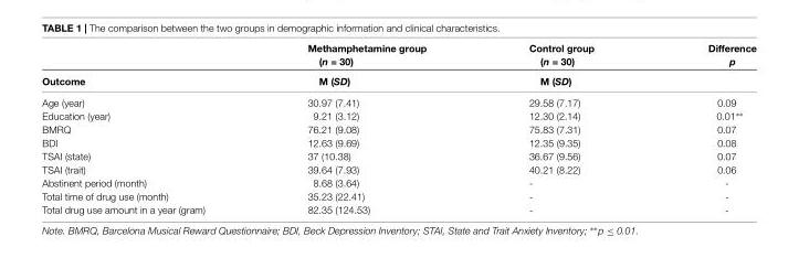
<table><thead><tr><td rowspan="2">Outcome</td><td rowspan="2">Methamphetamine group (n = 30) M (SD)</td><td rowspan="2">Control group (n = 30) M (SD)</td><td rowspan="2">Difference p</td></tr><tr></tr></thead><tbody><tr><td>Age (year)</td><td>30.97 (7.41)</td><td>29.58 (7.17)</td><td>0.09</td></tr><tr><td>Education (year)</td><td>9.21 (3.12)</td><td>12.30 (2.14)</td><td>0.01∗∗</td></tr><tr><td>BMRQ</td><td>76.21 (9.08)</td><td>75.83 (7.31)</td><td>0.07</td></tr><tr><td>BDI</td><td>12.63 (9.69)</td><td>12.35 (9.35)</td><td>0.08</td></tr><tr><td>TSAI (state)</td><td>37 (10.38)</td><td>36.67 (9.56)</td><td>0.07</td></tr><tr><td>TSAI (trait)</td><td>39.64 (7.93)</td><td>40.21 (8.22)</td><td>0.06</td></tr><tr><td>Abstinent period (month)</td><td>8.68 (3.64)</td><td>-</td><td>-</td></tr><tr><td>Total time of drug use (month)</td><td>35.23 (22.41)</td><td>-</td><td>-</td></tr><tr><td>Total drug use amount in a year (gram)</td><td>82.35 (124.53)</td><td>-</td><td>-</td></tr></tbody></table>